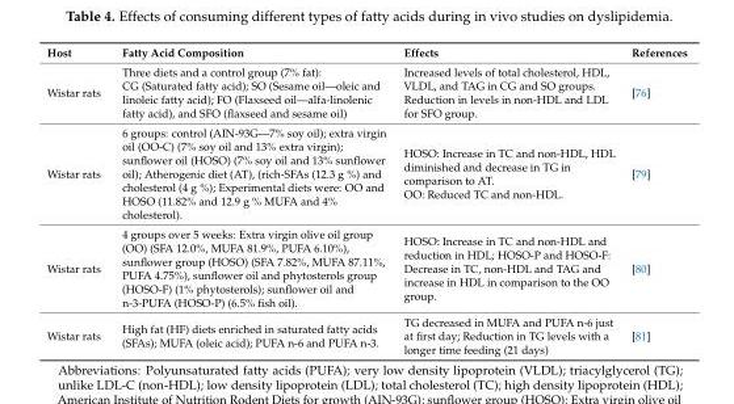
<table><thead><tr><td>Host</td><td>Fatty Acid Composition</td><td>Effects</td><td>References</td></tr></thead><tbody><tr><td>Wistar rats</td><td>Three diets and a control group (7% fat): CG (Saturated fatty acid); SO (Sesame oil—oleic and linoleic fatty acid); FO (Flaxseed oil—alfa-linolenic fatty acid), and SFO (flaxseed and sesame oil)</td><td>Increased levels of total cholesterol, HDL, VLDL, and TAG in CG and SO groups. Reduction in levels in non-HDL and LDL for SFO group.</td><td>[76]</td></tr><tr><td>Wistar rats</td><td>6 groups: control (AIN-93G—7% soy oil); extra virgin oil (OO-C) (7% soy oil and 13% extra virgin); sunflower oil (HOSO) (7% soy oil and 13% sunflower oil); Atherogenic diet (AT), (rich-SFAs (12.3 g %) and cholesterol (4 g %); Experimental diets were: OO and HOSO (11.82% and 12.9 g % MUFA and 4% cholesterol).</td><td>HOSO: Increase in TC and non-HDL, HDL diminished and decrease in TG in comparison to AT. OO: Reduced TC and non-HDL.</td><td>[79]</td></tr><tr><td>Wistar rats</td><td>4 groups over 5 weeks: Extra virgin olive oil group (OO) (SFA 12.0%, MUFA 81.9%, PUFA 6.10%), sunflower group (HOSO) (SFA 7.82%, MUFA 87.11%, PUFA 4.75%), sunflower oil and phytosterols group (HOSO-F) (1% phytosterols); sunflower oil and n-3-PUFA (HOSO-P) (6.5% fish oil).</td><td>HOSO: Increase in TC and non-HDL and reduction in HDL; HOSO-P and HOSO-F: Decrease in TC, non-HDL and TAG and increase in HDL in comparison to the OO group.</td><td>[80]</td></tr><tr><td>Wistar rats</td><td>High fat (HF) diets enriched in saturated fatty acids (SFAs); MUFA (oleic acid); PUFA n-6 and PUFA n-3.</td><td>TG decreased in MUFA and PUFA n-6 just at first day; Reduction in TG levels with a longer time feeding (21 days)</td><td>[81]</td></tr></tbody></table>